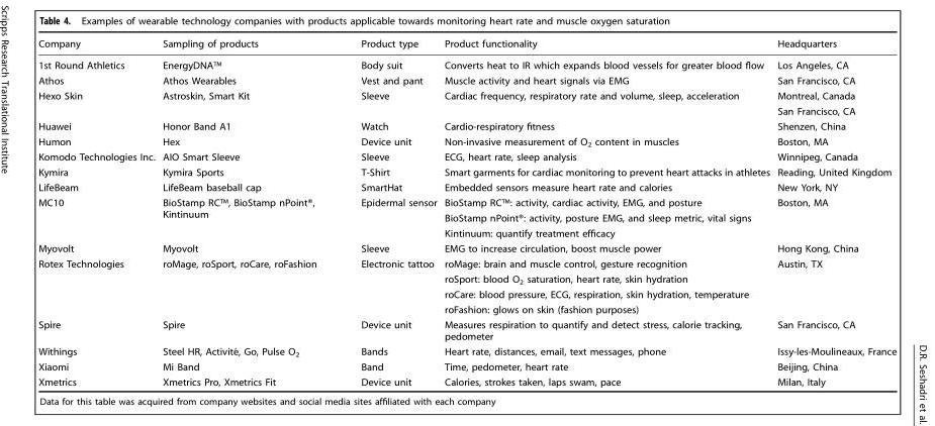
<table><thead><tr><td>Company</td><td>Sampling of products</td><td>Product type</td><td>Product functionality</td><td>Headquarters</td></tr></thead><tbody><tr><td>1st Round Athletics</td><td>EnergyDNA™</td><td>Body suit</td><td>Converts heat to IR which expands blood vessels for greater blood flow</td><td>Los Angeles, CA</td></tr><tr><td>Athos</td><td>Athos Wearables</td><td>Vest and pant</td><td>Muscle activity and heart signals via EMG</td><td>San Francisco, CA</td></tr><tr><td rowspan="2">Hexo Skin</td><td rowspan="2">Astroskin, Smart Kit</td><td rowspan="2">Sleeve</td><td rowspan="2">Cardiac frequency, respiratory rate and volume, sleep, acceleration</td><td>Montreal, Canada</td></tr><tr><td>San Francisco, CA</td></tr><tr><td>Huawei</td><td>Honor Band A1</td><td>Watch</td><td>Cardio-respiratory fitness</td><td>Shenzen, China</td></tr><tr><td>Humon</td><td>Hex</td><td>Device unit</td><td>Non-invasive measurement of O<sub>2</sub> content in muscles</td><td>Boston, MA</td></tr><tr><td>Komodo Technologies Inc.</td><td>AIO Smart Sleeve</td><td>Sleeve</td><td>ECG, heart rate, sleep analysis</td><td>Winnipeg, Canada</td></tr><tr><td>Kymira</td><td>Kymira Sports</td><td>T-Shirt</td><td>Smart garments for cardiac monitoring to prevent heart attacks in athletes</td><td>Reading, United Kingdom</td></tr><tr><td>LifeBeam</td><td>LifeBeam baseball cap</td><td>SmartHat</td><td>Embedded sensors measure heart rate and calories</td><td>New York, NY</td></tr><tr><td rowspan="3">MC10</td><td rowspan="3">BioStamp RC™, BioStamp nPoint®, Kintinuum</td><td rowspan="3">Epidermal sensor</td><td>BioStamp RC™: activity, cardiac activity, EMG, and posture</td><td rowspan="3">Boston, MA</td></tr><tr><td>BioStamp nPoint®: activity, posture EMG, and sleep metric, vital signs</td></tr><tr><td>Kintinuum: quantify treatment efficacy</td></tr><tr><td>Myovolt</td><td>Myovolt</td><td>Sleeve</td><td>EMG to increase circulation, boost muscle power</td><td>Hong Kong, China</td></tr><tr><td rowspan="4">Rotex Technologies</td><td rowspan="4">roMage, roSport, roCare, roFashion</td><td rowspan="4">Electronic tattoo</td><td>roMage: brain and muscle control, gesture recognition</td><td rowspan="4">Austin, TX</td></tr><tr><td>roSport: blood O<sub>2</sub> saturation, heart rate, skin hydration</td></tr><tr><td>roCare: blood pressure, ECG, respiration, skin hydration, temperature</td></tr><tr><td>roFashion: glows on skin (fashion purposes)</td></tr><tr><td>Spire</td><td>Spire</td><td>Device unit</td><td>Measures respiration to quantify and detect stress, calorie tracking, pedometer</td><td>San Francisco, CA</td></tr><tr><td>Withings</td><td>Steel HR, Activité, Go, Pulse O<sub>2</sub></td><td>Bands</td><td>Heart rate, distances, email, text messages, phone</td><td>Issy-les-Moulineaux, France</td></tr><tr><td>Xiaomi</td><td>Mi Band</td><td>Band</td><td>Time, pedometer, heart rate</td><td>Beijing, China</td></tr><tr><td>Xmetrics</td><td>Xmetrics Pro, Xmetrics Fit</td><td>Device unit</td><td>Calories, strokes taken, laps swam, pace</td><td>Milan, Italy</td></tr></tbody></table>